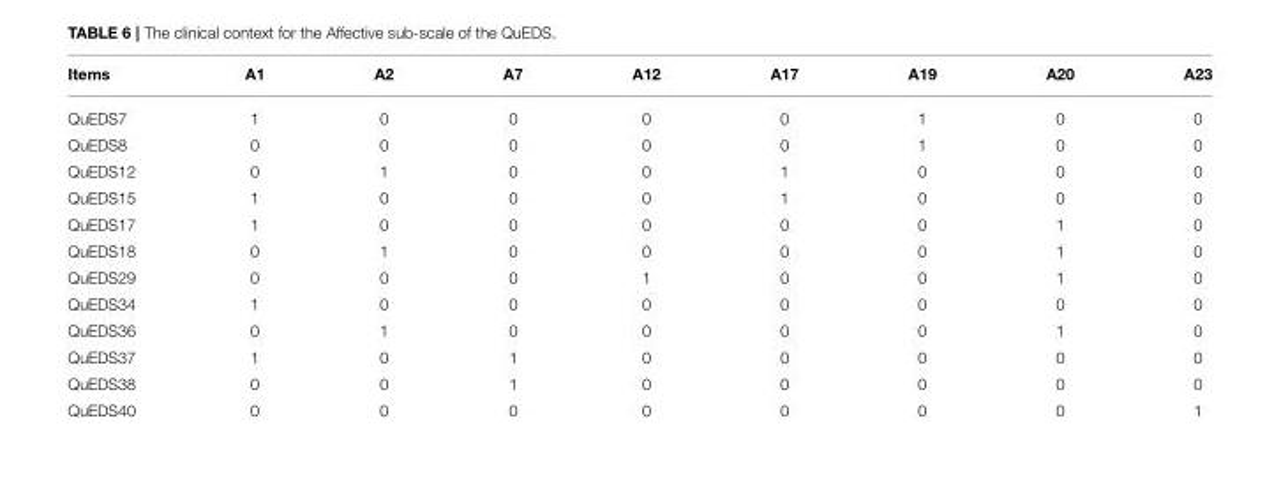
<table><thead><tr><td>Items</td><td>A1</td><td>A2</td><td>A7</td><td>A12</td><td>A17</td><td>A19</td><td>A20</td><td>A23</td></tr></thead><tbody><tr><td>QuEDS7</td><td>1</td><td>0</td><td>0</td><td>0</td><td>0</td><td>1</td><td>0</td><td>0</td></tr><tr><td>QuEDS8</td><td>0</td><td>0</td><td>0</td><td>0</td><td>0</td><td>1</td><td>0</td><td>0</td></tr><tr><td>QuEDS12</td><td>0</td><td>1</td><td>0</td><td>0</td><td>1</td><td>0</td><td>0</td><td>0</td></tr><tr><td>QuEDS15</td><td>1</td><td>0</td><td>0</td><td>0</td><td>1</td><td>0</td><td>0</td><td>0</td></tr><tr><td>QuEDS17</td><td>1</td><td>0</td><td>0</td><td>0</td><td>0</td><td>0</td><td>1</td><td>0</td></tr><tr><td>QuEDS18</td><td>0</td><td>1</td><td>0</td><td>0</td><td>0</td><td>0</td><td>1</td><td>0</td></tr><tr><td>QuEDS29</td><td>0</td><td>0</td><td>0</td><td>1</td><td>0</td><td>0</td><td>1</td><td>0</td></tr><tr><td>QuEDS34</td><td>1</td><td>0</td><td>0</td><td>0</td><td>0</td><td>0</td><td>0</td><td>0</td></tr><tr><td>QuEDS36</td><td>0</td><td>1</td><td>0</td><td>0</td><td>0</td><td>0</td><td>1</td><td>0</td></tr><tr><td>QuEDS37</td><td>1</td><td>0</td><td>1</td><td>0</td><td>0</td><td>0</td><td>0</td><td>0</td></tr><tr><td>QuEDS38</td><td>0</td><td>0</td><td>1</td><td>0</td><td>0</td><td>0</td><td>0</td><td>0</td></tr><tr><td>QuEDS40</td><td>0</td><td>0</td><td>0</td><td>0</td><td>0</td><td>0</td><td>0</td><td>1</td></tr></tbody></table>